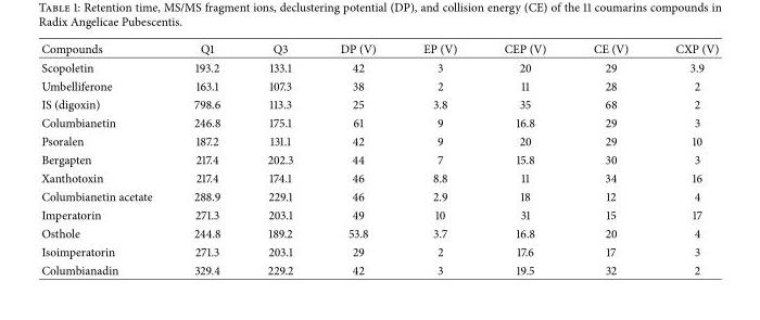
<table><thead><tr><td>Compounds</td><td>Q1</td><td>Q3</td><td>DP (V)</td><td>EP (V)</td><td>CEP (V)</td><td>CE (V)</td><td>CXP (V)</td></tr></thead><tbody><tr><td>Scopoletin</td><td>193.2</td><td>133.1</td><td>42</td><td>3</td><td>20</td><td>29</td><td>3.9</td></tr><tr><td>Umbelliferone</td><td>163.1</td><td>107.3</td><td>38</td><td>2</td><td>11</td><td>28</td><td>2</td></tr><tr><td>IS (digoxin)</td><td>798.6</td><td>113.3</td><td>25</td><td>3.8</td><td>35</td><td>68</td><td>2</td></tr><tr><td>Columbianetin</td><td>246.8</td><td>175.1</td><td>61</td><td>9</td><td>16.8</td><td>29</td><td>3</td></tr><tr><td>Psoralen</td><td>187.2</td><td>131.1</td><td>42</td><td>9</td><td>20</td><td>29</td><td>10</td></tr><tr><td>Bergapten</td><td>217.4</td><td>202.3</td><td>44</td><td>7</td><td>15.8</td><td>30</td><td>3</td></tr><tr><td>Xanthotoxin</td><td>217.4</td><td>174.1</td><td>46</td><td>8.8</td><td>11</td><td>34</td><td>16</td></tr><tr><td>Columbianetin acetate</td><td>288.9</td><td>229.1</td><td>46</td><td>2.9</td><td>18</td><td>12</td><td>4</td></tr><tr><td>Imperatorin</td><td>271.3</td><td>203.1</td><td>49</td><td>10</td><td>31</td><td>15</td><td>17</td></tr><tr><td>Osthole</td><td>244.8</td><td>189.2</td><td>53.8</td><td>3.7</td><td>16.8</td><td>20</td><td>4</td></tr><tr><td>Isoimperatorin</td><td>271.3</td><td>203.1</td><td>29</td><td>2</td><td>17.6</td><td>17</td><td>3</td></tr><tr><td>Columbianadin</td><td>329.4</td><td>229.2</td><td>42</td><td>3</td><td>19.5</td><td>32</td><td>2</td></tr></tbody></table>